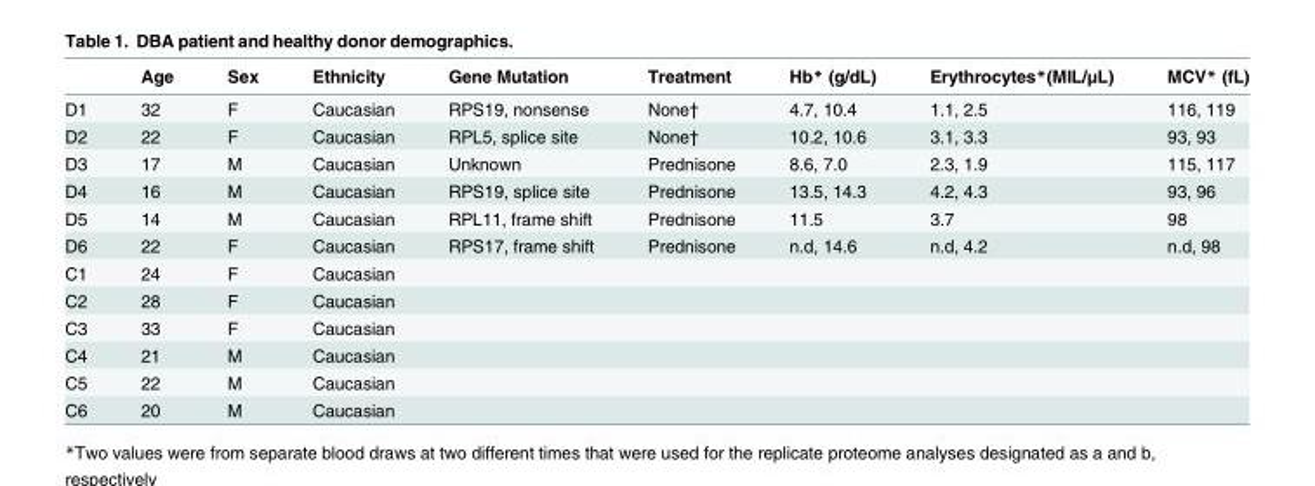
<table><thead><tr><td></td><td>Age</td><td>Sex</td><td>Ethnicity</td><td>Gene Mutation</td><td>Treatment</td><td>Hb* (g/dL)</td><td>Erythrocytes*(MIL/μL)</td><td>MCV* (fL)</td></tr></thead><tbody><tr><td>D1</td><td>32</td><td>F</td><td>Caucasian</td><td>RPS19, nonsense</td><td>None†</td><td>4.7, 10.4</td><td>1.1, 2.5</td><td>116, 119</td></tr><tr><td>D2</td><td>22</td><td>F</td><td>Caucasian</td><td>RPL5, splice site</td><td>None†</td><td>10.2, 10.6</td><td>3.1, 3.3</td><td>93, 93</td></tr><tr><td>D3</td><td>17</td><td>M</td><td>Caucasian</td><td>Unknown</td><td>Prednisone</td><td>8.6, 7.0</td><td>2.3, 1.9</td><td>115, 117</td></tr><tr><td>D4</td><td>16</td><td>M</td><td>Caucasian</td><td>RPS19, splice site</td><td>Prednisone</td><td>13.5, 14.3</td><td>4.2, 4.3</td><td>93, 96</td></tr><tr><td>D5</td><td>14</td><td>M</td><td>Caucasian</td><td>RPL11, frame shift</td><td>Prednisone</td><td>11.5</td><td>3.7</td><td>98</td></tr><tr><td>D6</td><td>22</td><td>F</td><td>Caucasian</td><td>RPS17, frame shift</td><td>Prednisone</td><td>n.d, 14.6</td><td>n.d, 4.2</td><td>n.d, 98</td></tr><tr><td>C1</td><td>24</td><td>F</td><td>Caucasian</td><td></td><td></td><td></td><td></td><td></td></tr><tr><td>C2</td><td>28</td><td>F</td><td>Caucasian</td><td></td><td></td><td></td><td></td><td></td></tr><tr><td>C3</td><td>33</td><td>F</td><td>Caucasian</td><td></td><td></td><td></td><td></td><td></td></tr><tr><td>C4</td><td>21</td><td>M</td><td>Caucasian</td><td></td><td></td><td></td><td></td><td></td></tr><tr><td>C5</td><td>22</td><td>M</td><td>Caucasian</td><td></td><td></td><td></td><td></td><td></td></tr><tr><td>C6</td><td>20</td><td>M</td><td>Caucasian</td><td></td><td></td><td></td><td></td><td></td></tr></tbody></table>